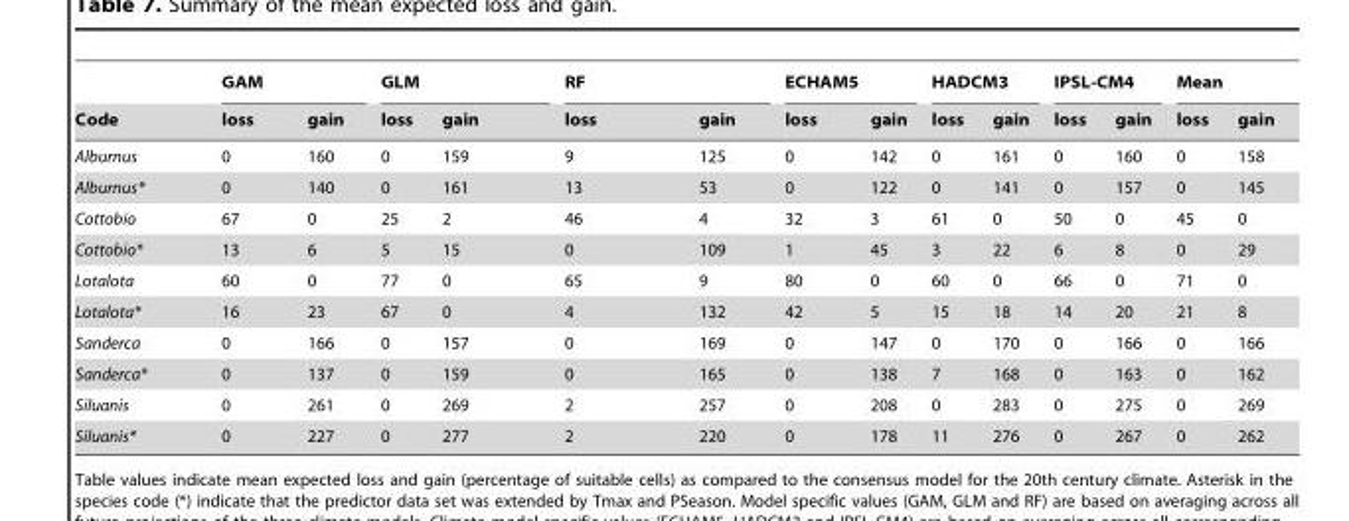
<table><thead><tr><td rowspan="2">Code</td><td colspan="2">GAM</td><td colspan="2">GLM</td><td colspan="2">RF</td><td colspan="2">ECHAM5</td><td colspan="2">HADCM3</td><td colspan="2">IPSL-CM4</td><td colspan="2">Mean</td></tr><tr><td>loss</td><td>gain</td><td>loss</td><td>gain</td><td>loss</td><td>gain</td><td>loss</td><td>gain</td><td>loss</td><td>gain</td><td>loss</td><td>gain</td><td>loss</td><td>gain</td></tr></thead><tbody><tr><td>Alburnus</td><td>0</td><td>160</td><td>0</td><td>159</td><td>9</td><td>125</td><td>0</td><td>142</td><td>0</td><td>161</td><td>0</td><td>160</td><td>0</td><td>158</td></tr><tr><td>Alburnus*</td><td>0</td><td>140</td><td>0</td><td>161</td><td>13</td><td>53</td><td>0</td><td>122</td><td>0</td><td>141</td><td>0</td><td>157</td><td>0</td><td>145</td></tr><tr><td>Cottobio</td><td>67</td><td>0</td><td>25</td><td>2</td><td>46</td><td>4</td><td>32</td><td>3</td><td>61</td><td>0</td><td>50</td><td>0</td><td>45</td><td>0</td></tr><tr><td>Cottobio*</td><td>13</td><td>6</td><td>5</td><td>15</td><td>0</td><td>109</td><td>1</td><td>45</td><td>3</td><td>22</td><td>6</td><td>8</td><td>0</td><td>29</td></tr><tr><td>Lotalota</td><td>60</td><td>0</td><td>77</td><td>0</td><td>65</td><td>9</td><td>80</td><td>0</td><td>60</td><td>0</td><td>66</td><td>0</td><td>71</td><td>0</td></tr><tr><td>Lotalota*</td><td>16</td><td>23</td><td>67</td><td>0</td><td>4</td><td>132</td><td>42</td><td>5</td><td>15</td><td>18</td><td>14</td><td>20</td><td>21</td><td>8</td></tr><tr><td>Sanderca</td><td>0</td><td>166</td><td>0</td><td>157</td><td>0</td><td>169</td><td>0</td><td>147</td><td>0</td><td>170</td><td>0</td><td>166</td><td>0</td><td>166</td></tr><tr><td>Sanderca*</td><td>0</td><td>137</td><td>0</td><td>159</td><td>0</td><td>165</td><td>0</td><td>138</td><td>7</td><td>168</td><td>0</td><td>163</td><td>0</td><td>162</td></tr><tr><td>Siluanis</td><td>0</td><td>261</td><td>0</td><td>269</td><td>2</td><td>257</td><td>0</td><td>208</td><td>0</td><td>283</td><td>0</td><td>275</td><td>0</td><td>269</td></tr><tr><td>Siluanis*</td><td>0</td><td>227</td><td>0</td><td>277</td><td>2</td><td>220</td><td>0</td><td>178</td><td>11</td><td>276</td><td>0</td><td>267</td><td>0</td><td>262</td></tr></tbody></table>